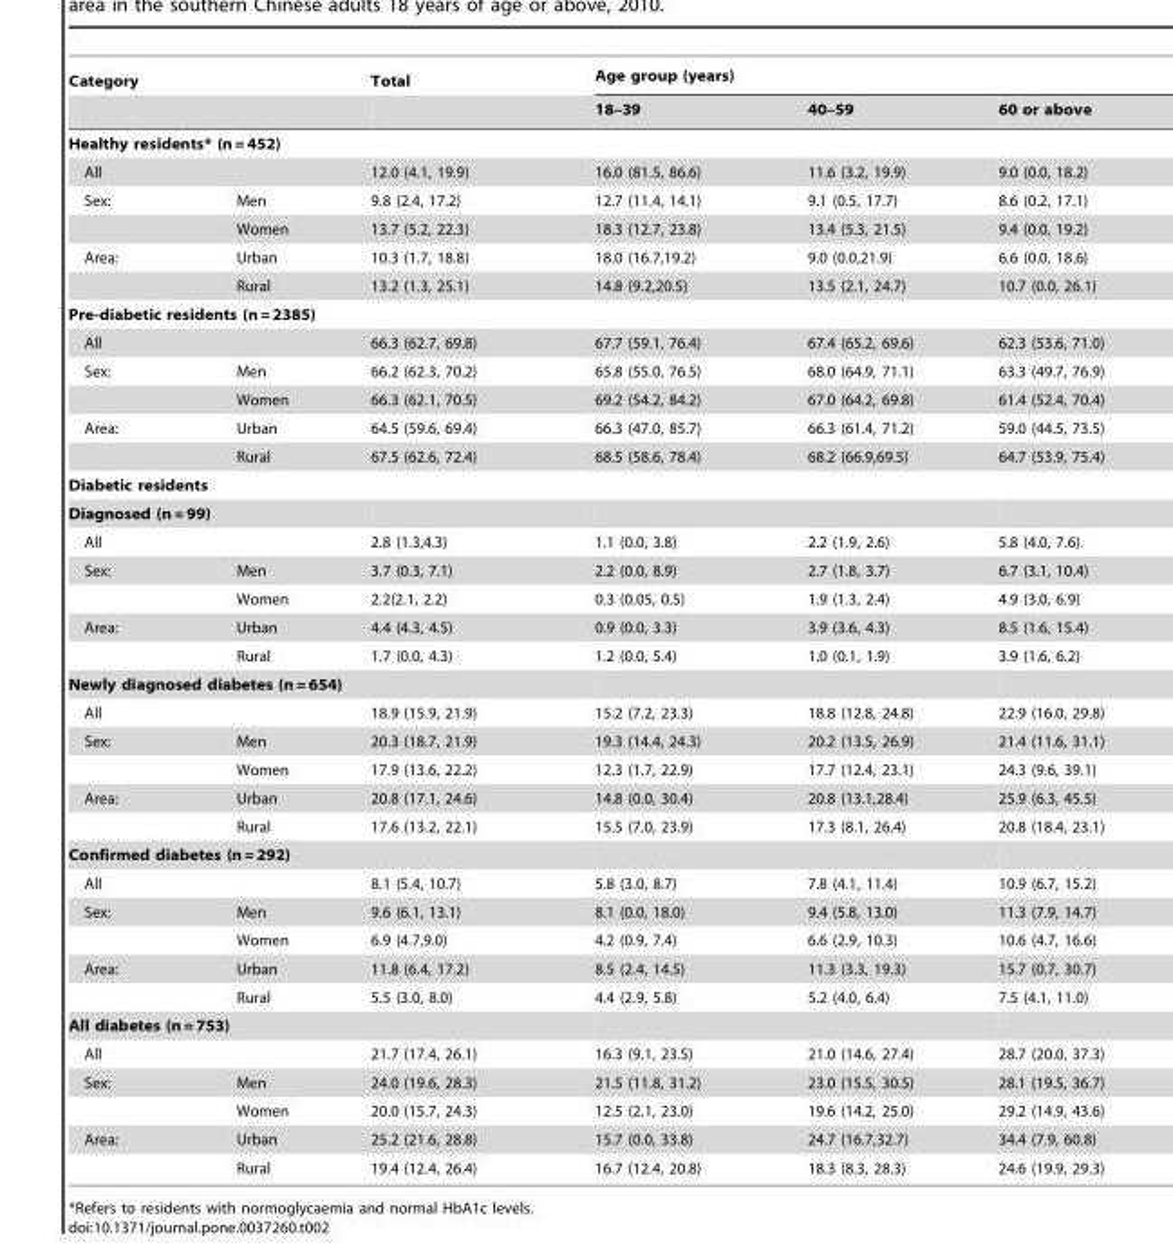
<table><thead><tr><td colspan="2">Category</td><td rowspan="2">Total</td><td colspan="3">Age group (years)</td></tr><tr><td></td><td></td><td>18–39</td><td>40–59</td><td>60 or above</td></tr></thead><tbody><tr><td colspan="6">Healthy residents* (n = 452)</td></tr><tr><td>All</td><td></td><td>12.0 (4.1, 19.9)</td><td>16.0 (81.5, 86.6)</td><td>11.6 (3.2, 19.9)</td><td>9.0 (0.0, 18.2)</td></tr><tr><td rowspan="2">Sex:</td><td>Men</td><td>9.8 (2.4, 17.2)</td><td>12.7 (11.4, 14.1)</td><td>9.1 (0.5, 17.7)</td><td>8.6 (0.2, 17.1)</td></tr><tr><td>Women</td><td>13.7 (5.2, 22.3)</td><td>18.3 (12.7, 23.8)</td><td>13.4 (5.3, 21.5)</td><td>9.4 (0.0, 19.2)</td></tr><tr><td rowspan="2">Area:</td><td>Urban</td><td>10.3 (1.7, 18.8)</td><td>18.0 (16.7,19.2)</td><td>9.0 (0.0,21.9)</td><td>6.6 (0.0, 18.6)</td></tr><tr><td>Rural</td><td>13.2 (1.3, 25.1)</td><td>14.8 (9.2,20.5)</td><td>13.5 (2.1, 24.7)</td><td>10.7 (0.0, 26.1)</td></tr><tr><td colspan="6">Pre-diabetic residents (n = 2385)</td></tr><tr><td>All</td><td></td><td>66.3 (62.7, 69.8)</td><td>67.7 (59.1, 76.4)</td><td>67.4 (65.2, 69.6)</td><td>62.3 (53.6, 71.0)</td></tr><tr><td rowspan="2">Sex:</td><td>Men</td><td>66.2 (62.3, 70.2)</td><td>65.8 (55.0, 76.5)</td><td>68.0 (64.9, 71.1)</td><td>63.3 (49.7, 76.9)</td></tr><tr><td>Women</td><td>66.3 (62.1, 70.5)</td><td>69.2 (54.2, 84.2)</td><td>67.0 (64.2, 69.8)</td><td>61.4 (52.4, 70.4)</td></tr><tr><td rowspan="2">Area:</td><td>Urban</td><td>64.5 (59.6, 69.4)</td><td>66.3 (47.0, 85.7)</td><td>66.3 (61.4, 71.2)</td><td>59.0 (44.5, 73.5)</td></tr><tr><td>Rural</td><td>67.5 (62.6, 72.4)</td><td>68.5 (58.6, 78.4)</td><td>68.2 (66.9,69.5)</td><td>64.7 (53.9, 75.4)</td></tr><tr><td colspan="6">Diabetic residents</td></tr><tr><td colspan="6">Diagnosed (n = 99)</td></tr><tr><td>All</td><td></td><td>2.8 (1.3,4.3)</td><td>1.1 (0.0, 3.8)</td><td>2.2 (1.9, 2.6)</td><td>5.8 (4.0, 7.6)</td></tr><tr><td rowspan="2">Sex:</td><td>Men</td><td>3.7 (0.3, 7.1)</td><td>2.2 (0.0, 8.9)</td><td>2.7 (1.8, 3.7)</td><td>6.7 (3.1, 10.4)</td></tr><tr><td>Women</td><td>2.2(2.1, 2.2)</td><td>0.3 (0.05, 0.5)</td><td>1.9 (1.3, 2.4)</td><td>4.9 (3.0, 6.9)</td></tr><tr><td rowspan="2">Area:</td><td>Urban</td><td>4.4 (4.3, 4.5)</td><td>0.9 (0.0, 3.3)</td><td>3.9 (3.6, 4.3)</td><td>8.5 (1.6, 15.4)</td></tr><tr><td>Rural</td><td>1.7 (0.0, 4.3)</td><td>1.2 (0.0, 5.4)</td><td>1.0 (0.1, 1.9)</td><td>3.9 (1.6, 6.2)</td></tr><tr><td colspan="6">Newly diagnosed diabetes (n = 654)</td></tr><tr><td>All</td><td></td><td>18.9 (15.9, 21.9)</td><td>15.2 (7.2, 23.3)</td><td>18.8 (12.8, 24.8)</td><td>22.9 (16.0, 29.8)</td></tr><tr><td rowspan="2">Sex:</td><td>Men</td><td>20.3 (18.7, 21.9)</td><td>19.3 (14.4, 24.3)</td><td>20.2 (13.5, 26.9)</td><td>21.4 (11.6, 31.1)</td></tr><tr><td>Women</td><td>17.9 (13.6, 22.2)</td><td>12.3 (1.7, 22.9)</td><td>17.7 (12.4, 23.1)</td><td>24.3 (9.6, 39.1)</td></tr><tr><td rowspan="2">Area:</td><td>Urban</td><td>20.8 (17.1, 24.6)</td><td>14.8 (0.0, 30.4)</td><td>20.8 (13.1,28.4)</td><td>25.9 (6.3, 45.5)</td></tr><tr><td>Rural</td><td>17.6 (13.2, 22.1)</td><td>15.5 (7.0, 23.9)</td><td>17.3 (8.1, 26.4)</td><td>20.8 (18.4, 23.1)</td></tr><tr><td colspan="6">Confirmed diabetes (n = 292)</td></tr><tr><td>All</td><td></td><td>8.1 (5.4, 10.7)</td><td>5.8 (3.0, 8.7)</td><td>7.8 (4.1, 11.4)</td><td>10.9 (6.7, 15.2)</td></tr><tr><td rowspan="2">Sex:</td><td>Men</td><td>9.6 (6.1, 13.1)</td><td>8.1 (0.0, 18.0)</td><td>9.4 (5.8, 13.0)</td><td>11.3 (7.9, 14.7)</td></tr><tr><td>Women</td><td>6.9 (4.7,9.0)</td><td>4.2 (0.9, 7.4)</td><td>6.6 (2.9, 10.3)</td><td>10.6 (4.7, 16.6)</td></tr><tr><td rowspan="2">Area:</td><td>Urban</td><td>11.8 (6.4, 17.2)</td><td>8.5 (2.4, 14.5)</td><td>11.3 (3.3, 19.3)</td><td>15.7 (0.7, 30.7)</td></tr><tr><td>Rural</td><td>5.5 (3.0, 8.0)</td><td>4.4 (2.9, 5.8)</td><td>5.2 (4.0, 6.4)</td><td>7.5 (4.1, 11.0)</td></tr><tr><td colspan="6">All diabetes (n = 753)</td></tr><tr><td>All</td><td></td><td>21.7 (17.4, 26.1)</td><td>16.3 (9.1, 23.5)</td><td>21.0 (14.6, 27.4)</td><td>28.7 (20.0, 37.3)</td></tr><tr><td rowspan="2">Sex:</td><td>Men</td><td>24.0 (19.6, 28.3)</td><td>21.5 (11.8, 31.2)</td><td>23.0 (15.5, 30.5)</td><td>28.1 (19.5, 36.7)</td></tr><tr><td>Women</td><td>20.0 (15.7, 24.3)</td><td>12.5 (2.1, 23.0)</td><td>19.6 (14.2, 25.0)</td><td>29.2 (14.9, 43.6)</td></tr><tr><td rowspan="2">Area:</td><td>Urban</td><td>25.2 (21.6, 28.8)</td><td>15.7 (0.0, 33.8)</td><td>24.7 (16.7,32.7)</td><td>34.4 (7.9, 60.8)</td></tr><tr><td>Rural</td><td>19.4 (12.4, 26.4)</td><td>16.7 (12.4, 20.8)</td><td>18.3 (8.3, 28.3)</td><td>24.6 (19.9, 29.3)</td></tr></tbody></table>